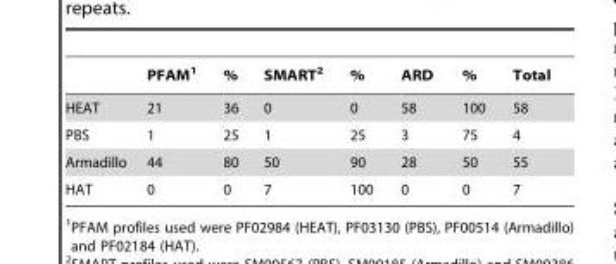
<table><thead><tr><td></td><td>PFAM<sup>1</sup></td><td>%</td><td>SMART<sup>2</sup></td><td>%</td><td>ARD</td><td>%</td><td>Total</td></tr></thead><tbody><tr><td>HEAT</td><td>21</td><td>36</td><td>0</td><td>0</td><td>58</td><td>100</td><td>58</td></tr><tr><td>PBS</td><td>1</td><td>25</td><td>1</td><td>25</td><td>3</td><td>75</td><td>4</td></tr><tr><td>Armadillo</td><td>44</td><td>80</td><td>50</td><td>90</td><td>28</td><td>50</td><td>55</td></tr><tr><td>HAT</td><td>0</td><td>0</td><td>7</td><td>100</td><td>0</td><td>0</td><td>7</td></tr></tbody></table>